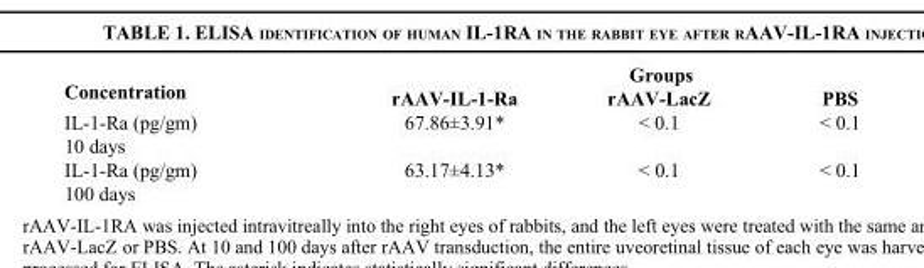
<table><thead><tr><td rowspan="2">Concentration</td><td colspan="3">Groups</td></tr><tr><td>rAAV-IL-1-Ra</td><td>rAAV-LacZ</td><td>PBS</td></tr></thead><tbody><tr><td>IL-1-Ra (pg/gm) 10 days</td><td>67.86±3.91*</td><td>&lt; 0.1</td><td>&lt; 0.1</td></tr><tr><td>IL-1-Ra (pg/gm) 100 days</td><td>63.17±4.13*</td><td>&lt; 0.1</td><td>&lt; 0.1</td></tr></tbody></table>